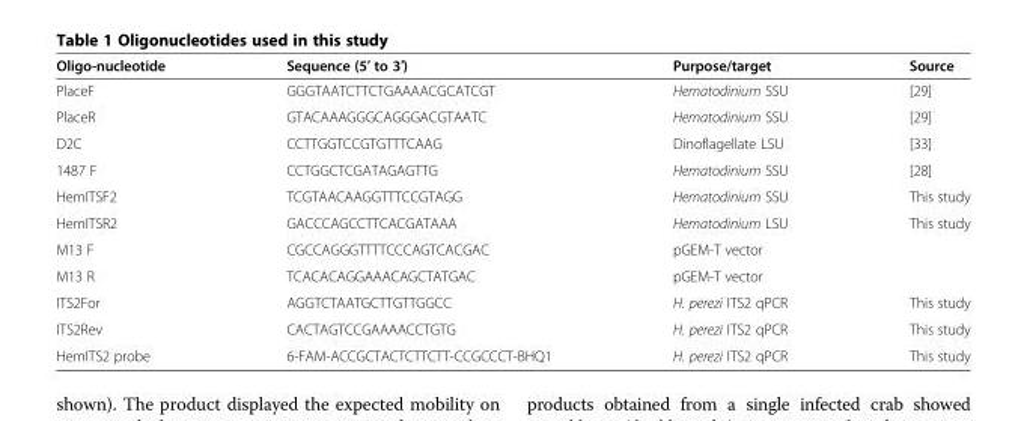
<table><thead><tr><td>Oligo-nucleotide</td><td>Sequence (5′ to 3′)</td><td>Purpose/target</td><td>Source</td></tr></thead><tbody><tr><td>PlaceF</td><td>GGGTAATCTTCTGAAAACGCATCGT</td><td>Hematodinium SSU</td><td>[29]</td></tr><tr><td>PlaceR</td><td>GTACAAAGGGCAGGGACGTAATC</td><td>Hematodinium SSU</td><td>[29]</td></tr><tr><td>D2C</td><td>CCTTGGTCCGTGTTTCAAG</td><td>Dinoflagellate LSU</td><td>[33]</td></tr><tr><td>1487 F</td><td>CCTGGCTCGATAGAGTTG</td><td>Hematodinium SSU</td><td>[28]</td></tr><tr><td>HemITSF2</td><td>TCGTAACAAGGTTTCCGTAGG</td><td>Hematodinium SSU</td><td>This study</td></tr><tr><td>HemITSR2</td><td>GACCCAGCCTTCACGATAAA</td><td>Hematodinium LSU</td><td>This study</td></tr><tr><td>M13 F</td><td>CGCCAGGGTTTTCCCAGTCACGAC</td><td>pGEM-T vector</td><td></td></tr><tr><td>M13 R</td><td>TCACACAGGAAACAGCTATGAC</td><td>pGEM-T vector</td><td></td></tr><tr><td>ITS2For</td><td>AGGTCTAATGCTTGTTGGCC</td><td>H. perezi ITS2 qPCR</td><td>This study</td></tr><tr><td>ITS2Rev</td><td>CACTAGTCCGAAAACCTGTG</td><td>H. perezi ITS2 qPCR</td><td>This study</td></tr><tr><td>HemITS2 probe</td><td>6-FAM-ACCGCTACTCTTCTT-CCGCCCT-BHQ1</td><td>H. perezi ITS2 qPCR</td><td>This study</td></tr></tbody></table>